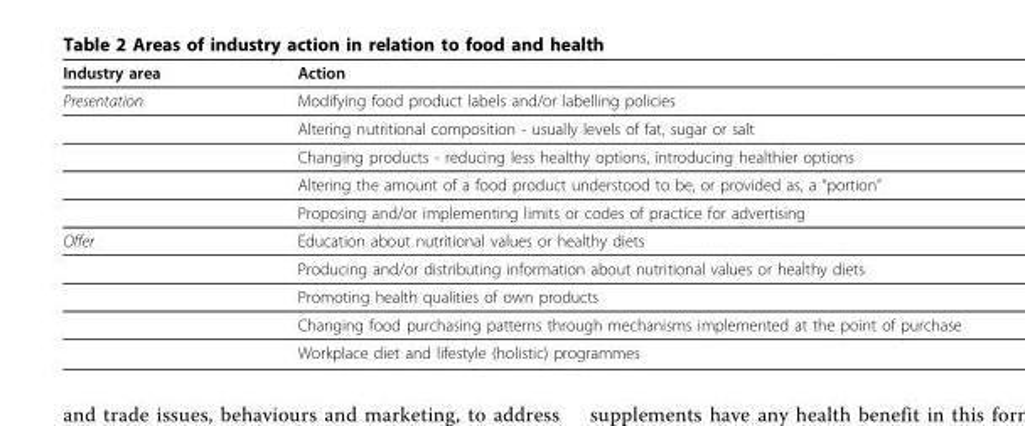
<table><thead><tr><td>Industry area</td><td>Action</td></tr></thead><tbody><tr><td rowspan="5">Presentation</td><td>Modifying food product labels and/or labelling policies</td></tr><tr><td>Altering nutritional composition - usually levels of fat, sugar or salt</td></tr><tr><td>Changing products - reducing less healthy options, introducing healthier options</td></tr><tr><td>Altering the amount of a food product understood to be, or provided as, a “portion”</td></tr><tr><td>Proposing and/or implementing limits or codes of practice for advertising</td></tr><tr><td rowspan="5">Offer</td><td>Education about nutritional values or healthy diets</td></tr><tr><td>Producing and/or distributing information about nutritional values or healthy diets</td></tr><tr><td>Promoting health qualities of own products</td></tr><tr><td>Changing food purchasing patterns through mechanisms implemented at the point of purchase</td></tr><tr><td>Workplace diet and lifestyle (holistic) programmes</td></tr></tbody></table>